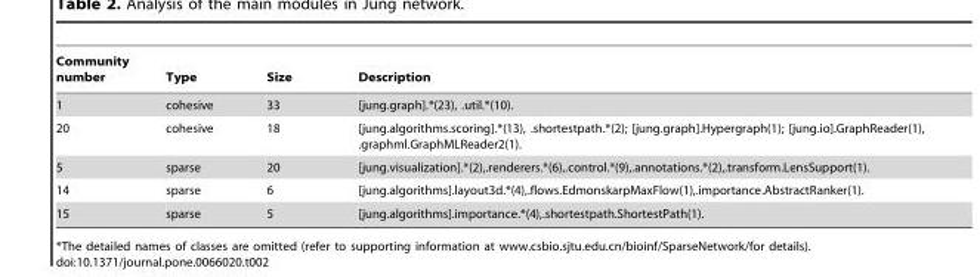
<table><thead><tr><td>Community number</td><td>Type</td><td>Size</td><td>Description</td></tr></thead><tbody><tr><td>1</td><td>cohesive</td><td>33</td><td>[jung.graph].*(23), .util.*(10).</td></tr><tr><td>20</td><td>cohesive</td><td>18</td><td>[jung.algorithms.scoring].*(13), .shortestpath.*(2); [jung.graph].Hypergraph(1); [jung.io].GraphReader(1), .graphml.GraphMLReader2(1).</td></tr><tr><td>5</td><td>sparse</td><td>20</td><td>[jung.visualization].*(2),.renderers.*(6),.control.*(9),.annotations.*(2),.transform.LensSupport(1).</td></tr><tr><td>14</td><td>sparse</td><td>6</td><td>[jung.algorithms].layout3d.*(4),.flows.EdmonskarpMaxFlow(1),.importance.AbstractRanker(1).</td></tr><tr><td>15</td><td>sparse</td><td>5</td><td>[jung.algorithms].importance.*(4),.shortestpath.ShortestPath(1).</td></tr></tbody></table>